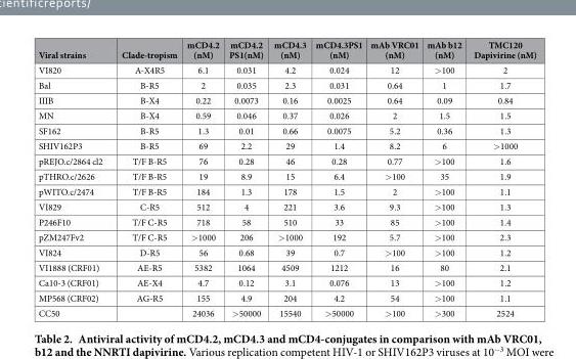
<table><thead><tr><td>Viral strains</td><td>Clade-tropism</td><td>mCD4.2 (nM)</td><td>mCD4.2 PS1(nM)</td><td>mCD4.3 (nM)</td><td>mCD4.3PS1 (nM)</td><td>mAb VRC01 (nM)</td><td>mAb b12 (nM)</td><td>TMC120 Dapivirine (nM)</td></tr></thead><tbody><tr><td>VI820</td><td>A-X4R5</td><td>6.1</td><td>0.031</td><td>4.2</td><td>0.024</td><td>12</td><td>&gt; 100</td><td>2</td></tr><tr><td>Bal</td><td>B-R5</td><td>2</td><td>0.035</td><td>2.3</td><td>0.031</td><td>0.64</td><td>1</td><td>1.7</td></tr><tr><td>IIIB</td><td>B-X4</td><td>0.22</td><td>0.0073</td><td>0.16</td><td>0.0025</td><td>0.64</td><td>0.09</td><td>0.84</td></tr><tr><td>MN</td><td>B-X4</td><td>0.59</td><td>0.046</td><td>0.37</td><td>0.026</td><td>2</td><td>1.5</td><td>1.5</td></tr><tr><td>SF162</td><td>B-R5</td><td>1.3</td><td>0.01</td><td>0.66</td><td>0.0075</td><td>5.2</td><td>0.36</td><td>1.3</td></tr><tr><td>SHIV162P3</td><td>B-R5</td><td>69</td><td>2.2</td><td>29</td><td>1.4</td><td>8.2</td><td>6</td><td>&gt; 1000</td></tr><tr><td>pREJO.c/2864 cl2</td><td>T/F B-R5</td><td>76</td><td>0.28</td><td>46</td><td>0.28</td><td>0.77</td><td>&gt; 100</td><td>1.6</td></tr><tr><td>pTHRO.c/2626</td><td>T/F B-R5</td><td>19</td><td>8.9</td><td>15</td><td>6.4</td><td>&gt; 100</td><td>35</td><td>1.9</td></tr><tr><td>pWITO.c/2474</td><td>T/F B-R5</td><td>184</td><td>1.3</td><td>178</td><td>1.5</td><td>2</td><td>&gt; 100</td><td>1.1</td></tr><tr><td>VI829</td><td>C-R5</td><td>512</td><td>4</td><td>221</td><td>3.6</td><td>9.3</td><td>&gt; 100</td><td>1.3</td></tr><tr><td>P246F10</td><td>T/F C-R5</td><td>718</td><td>58</td><td>510</td><td>33</td><td>85</td><td>&gt; 100</td><td>1.4</td></tr><tr><td>pZM247Fv2</td><td>T/F C-R5</td><td>&gt; 1000</td><td>206</td><td>&gt; 1000</td><td>192</td><td>5.7</td><td>&gt; 100</td><td>2.3</td></tr><tr><td>VI824</td><td>D-R5</td><td>56</td><td>0.68</td><td>39</td><td>0.7</td><td>&gt; 100</td><td>&gt; 100</td><td>1.2</td></tr><tr><td>VI1888 (CRF01)</td><td>AE-R5</td><td>5382</td><td>1064</td><td>4509</td><td>1212</td><td>16</td><td>80</td><td>2.1</td></tr><tr><td>Ca10-3 (CRF01)</td><td>AE-X4</td><td>4.7</td><td>0.12</td><td>3.1</td><td>0.076</td><td>13</td><td>&gt; 100</td><td>1.2</td></tr><tr><td>MP568 (CRF02)</td><td>AG-R5</td><td>155</td><td>4.9</td><td>204</td><td>4.2</td><td>54</td><td>&gt; 100</td><td>1.1</td></tr><tr><td>CC50</td><td></td><td>24036</td><td>&gt; 50000</td><td>15540</td><td>&gt; 50000</td><td>&gt; 100</td><td>&gt; 300</td><td>2524</td></tr></tbody></table>